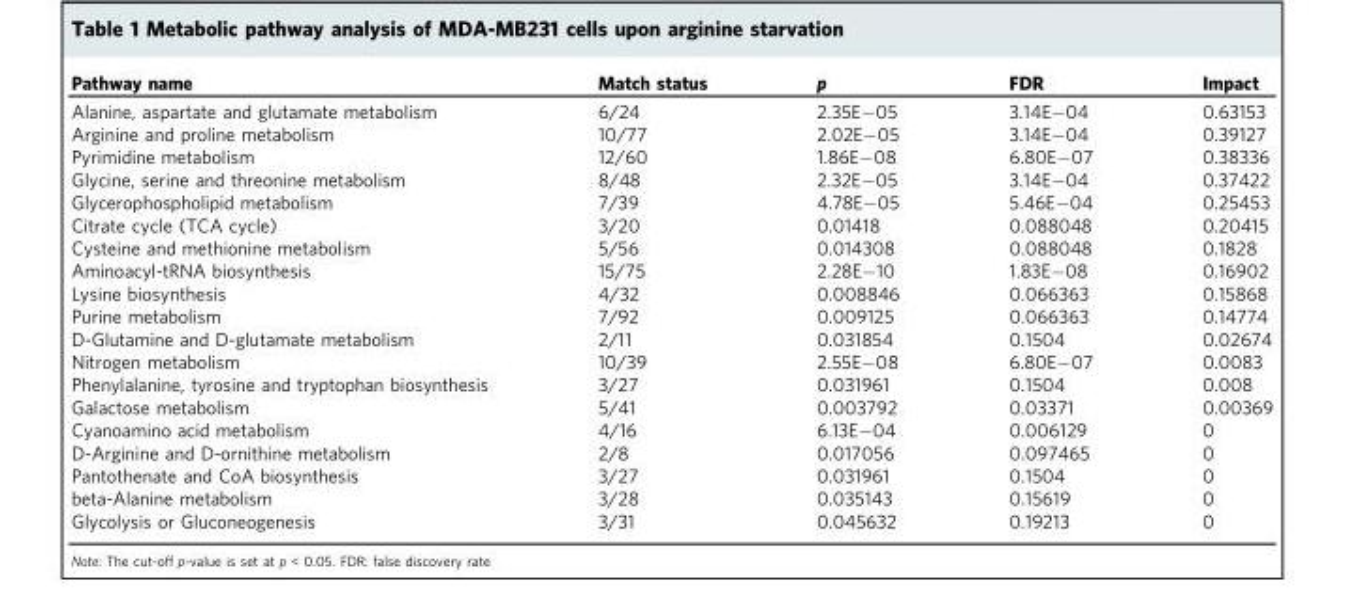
<table><thead><tr><td>Pathway name</td><td>Match status</td><td>p</td><td>FDR</td><td>Impact</td></tr></thead><tbody><tr><td>Alanine, aspartate and glutamate metabolism</td><td>6/24</td><td>2.35E−05</td><td>3.14E−04</td><td>0.63153</td></tr><tr><td>Arginine and proline metabolism</td><td>10/77</td><td>2.02E−05</td><td>3.14E−04</td><td>0.39127</td></tr><tr><td>Pyrimidine metabolism</td><td>12/60</td><td>1.86E−08</td><td>6.80E−07</td><td>0.38336</td></tr><tr><td>Glycine, serine and threonine metabolism</td><td>8/48</td><td>2.32E−05</td><td>3.14E−04</td><td>0.37422</td></tr><tr><td>Glycerophospholipid metabolism</td><td>7/39</td><td>4.78E−05</td><td>5.46E−04</td><td>0.25453</td></tr><tr><td>Citrate cycle (TCA cycle)</td><td>3/20</td><td>0.01418</td><td>0.088048</td><td>0.20415</td></tr><tr><td>Cysteine and methionine metabolism</td><td>5/56</td><td>0.014308</td><td>0.088048</td><td>0.1828</td></tr><tr><td>Aminoacyl-tRNA biosynthesis</td><td>15/75</td><td>2.28E−10</td><td>1.83E−08</td><td>0.16902</td></tr><tr><td>Lysine biosynthesis</td><td>4/32</td><td>0.008846</td><td>0.066363</td><td>0.15868</td></tr><tr><td>Purine metabolism</td><td>7/92</td><td>0.009125</td><td>0.066363</td><td>0.14774</td></tr><tr><td>D-Glutamine and D-glutamate metabolism</td><td>2/11</td><td>0.031854</td><td>0.1504</td><td>0.02674</td></tr><tr><td>Nitrogen metabolism</td><td>10/39</td><td>2.55E−08</td><td>6.80E−07</td><td>0.0083</td></tr><tr><td>Phenylalanine, tyrosine and tryptophan biosynthesis</td><td>3/27</td><td>0.031961</td><td>0.1504</td><td>0.008</td></tr><tr><td>Galactose metabolism</td><td>5/41</td><td>0.003792</td><td>0.03371</td><td>0.00369</td></tr><tr><td>Cyanoamino acid metabolism</td><td>4/16</td><td>6.13E−04</td><td>0.006129</td><td>0</td></tr><tr><td>D-Arginine and D-ornithine metabolism</td><td>2/8</td><td>0.017056</td><td>0.097465</td><td>0</td></tr><tr><td>Pantothenate and CoA biosynthesis</td><td>3/27</td><td>0.031961</td><td>0.1504</td><td>0</td></tr><tr><td>beta-Alanine metabolism</td><td>3/28</td><td>0.035143</td><td>0.15619</td><td>0</td></tr><tr><td>Glycolysis or Gluconeogenesis</td><td>3/31</td><td>0.045632</td><td>0.19213</td><td>0</td></tr></tbody></table>